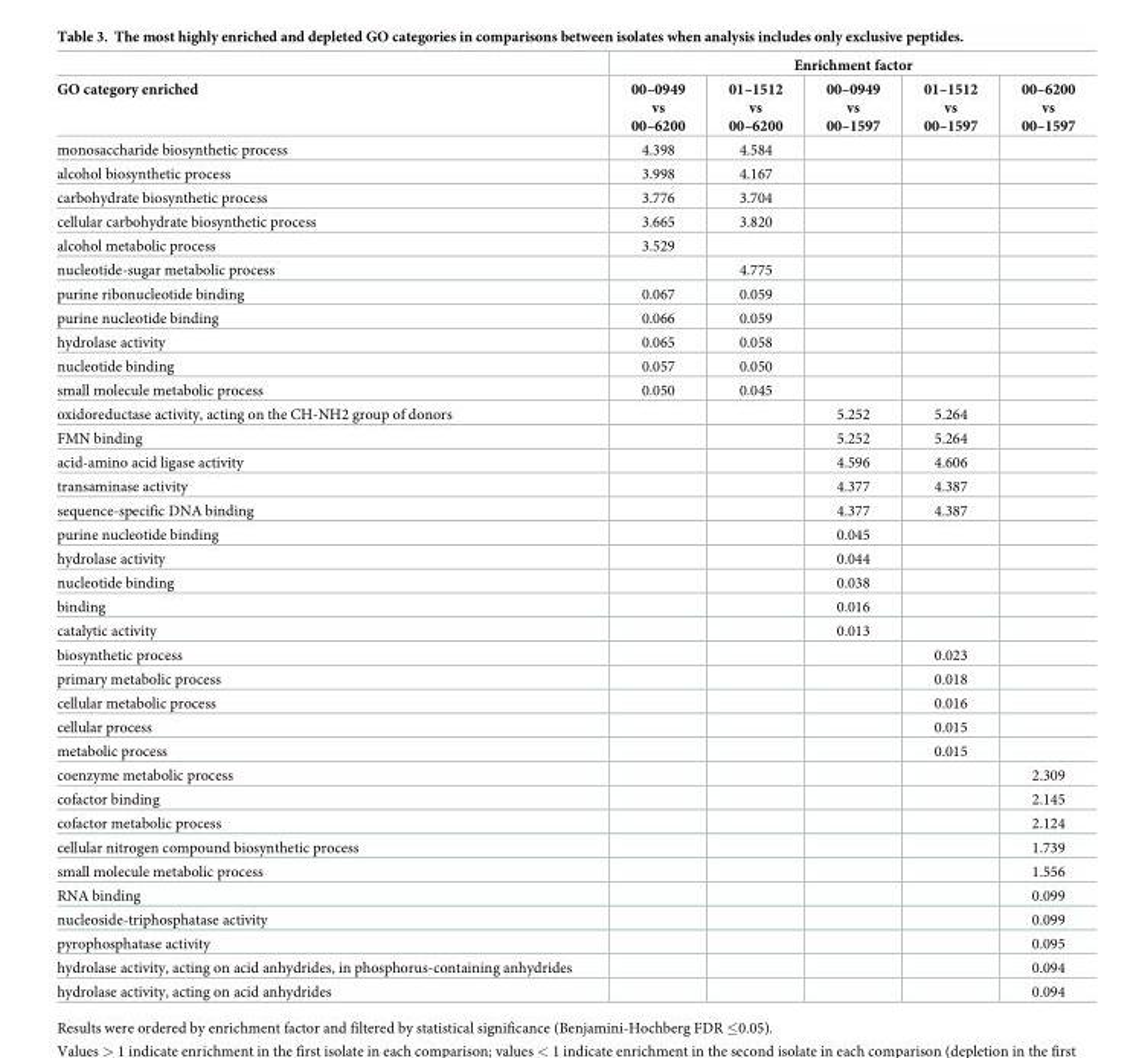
<table><thead><tr><td rowspan="2">GO category enriched</td><td colspan="5">Enrichment factor</td></tr><tr><td>00–0949 vs 00–6200</td><td>01–1512 vs 00–6200</td><td>00–0949 vs 00–1597</td><td>01–1512 vs 00–1597</td><td>00–6200 vs 00–1597</td></tr></thead><tbody><tr><td>monosaccharide biosynthetic process</td><td>4.398</td><td>4.584</td><td></td><td></td><td></td></tr><tr><td>alcohol biosynthetic process</td><td>3.998</td><td>4.167</td><td></td><td></td><td></td></tr><tr><td>carbohydrate biosynthetic process</td><td>3.776</td><td>3.704</td><td></td><td></td><td></td></tr><tr><td>cellular carbohydrate biosynthetic process</td><td>3.665</td><td>3.820</td><td></td><td></td><td></td></tr><tr><td>alcohol metabolic process</td><td>3.529</td><td></td><td></td><td></td><td></td></tr><tr><td>nucleotide-sugar metabolic process</td><td></td><td>4.775</td><td></td><td></td><td></td></tr><tr><td>purine ribonucleotide binding</td><td>0.067</td><td>0.059</td><td></td><td></td><td></td></tr><tr><td>purine nucleotide binding</td><td>0.066</td><td>0.059</td><td></td><td></td><td></td></tr><tr><td>hydrolase activity</td><td>0.065</td><td>0.058</td><td></td><td></td><td></td></tr><tr><td>nucleotide binding</td><td>0.057</td><td>0.050</td><td></td><td></td><td></td></tr><tr><td>small molecule metabolic process</td><td>0.050</td><td>0.045</td><td></td><td></td><td></td></tr><tr><td>oxidoreductase activity, acting on the CH-NH2 group of donors</td><td></td><td></td><td>5.252</td><td>5.264</td><td></td></tr><tr><td>FMN binding</td><td></td><td></td><td>5.252</td><td>5.264</td><td></td></tr><tr><td>acid-amino acid ligase activity</td><td></td><td></td><td>4.596</td><td>4.606</td><td></td></tr><tr><td>transaminase activity</td><td></td><td></td><td>4.377</td><td>4.387</td><td></td></tr><tr><td>sequence-specific DNA binding</td><td></td><td></td><td>4.377</td><td>4.387</td><td></td></tr><tr><td>purine nucleotide binding</td><td></td><td></td><td>0.045</td><td></td><td></td></tr><tr><td>hydrolase activity</td><td></td><td></td><td>0.044</td><td></td><td></td></tr><tr><td>nucleotide binding</td><td></td><td></td><td>0.038</td><td></td><td></td></tr><tr><td>binding</td><td></td><td></td><td>0.016</td><td></td><td></td></tr><tr><td>catalytic activity</td><td></td><td></td><td>0.013</td><td></td><td></td></tr><tr><td>biosynthetic process</td><td></td><td></td><td></td><td>0.023</td><td></td></tr><tr><td>primary metabolic process</td><td></td><td></td><td></td><td>0.018</td><td></td></tr><tr><td>cellular metabolic process</td><td></td><td></td><td></td><td>0.016</td><td></td></tr><tr><td>cellular process</td><td></td><td></td><td></td><td>0.015</td><td></td></tr><tr><td>metabolic process</td><td></td><td></td><td></td><td>0.015</td><td></td></tr><tr><td>coenzyme metabolic process</td><td></td><td></td><td></td><td></td><td>2.309</td></tr><tr><td>cofactor binding</td><td></td><td></td><td></td><td></td><td>2.145</td></tr><tr><td>cofactor metabolic process</td><td></td><td></td><td></td><td></td><td>2.124</td></tr><tr><td>cellular nitrogen compound biosynthetic process</td><td></td><td></td><td></td><td></td><td>1.739</td></tr><tr><td>small molecule metabolic process</td><td></td><td></td><td></td><td></td><td>1.556</td></tr><tr><td>RNA binding</td><td></td><td></td><td></td><td></td><td>0.099</td></tr><tr><td>nucleoside-triphosphatase activity</td><td></td><td></td><td></td><td></td><td>0.099</td></tr><tr><td>pyrophosphatase activity</td><td></td><td></td><td></td><td></td><td>0.095</td></tr><tr><td>hydrolase activity, acting on acid anhydrides, in phosphorus-containing anhydrides</td><td></td><td></td><td></td><td></td><td>0.094</td></tr><tr><td>hydrolase activity, acting on acid anhydrides</td><td></td><td></td><td></td><td></td><td>0.094</td></tr></tbody></table>